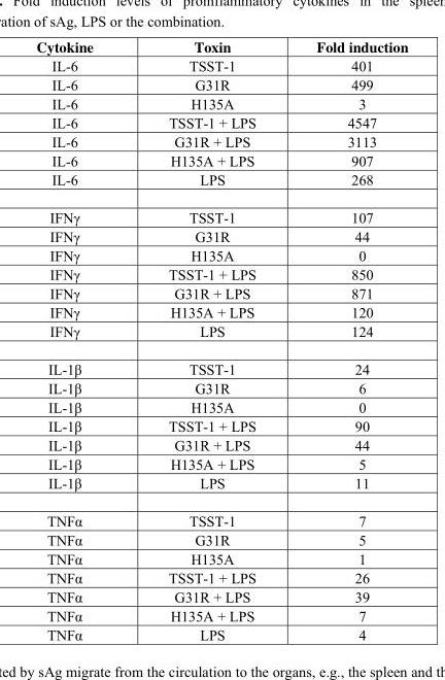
<table><thead><tr><td>Cytokine</td><td>Toxin</td><td>Fold induction</td></tr></thead><tbody><tr><td>IL-6</td><td>TSST-1</td><td>401</td></tr><tr><td>IL-6</td><td>G31R</td><td>499</td></tr><tr><td>IL-6</td><td>H135A</td><td>3</td></tr><tr><td>IL-6</td><td>TSST-1 + LPS</td><td>4547</td></tr><tr><td>IL-6</td><td>G31R + LPS</td><td>3113</td></tr><tr><td>IL-6</td><td>H135A + LPS</td><td>907</td></tr><tr><td>IL-6</td><td>LPS</td><td>268</td></tr><tr><td>IFNγ</td><td>TSST-1</td><td>107</td></tr><tr><td>IFNγ</td><td>G31R</td><td>44</td></tr><tr><td>IFNγ</td><td>H135A</td><td>0</td></tr><tr><td>IFNγ</td><td>TSST-1 + LPS</td><td>850</td></tr><tr><td>IFNγ</td><td>G31R + LPS</td><td>871</td></tr><tr><td>IFNγ</td><td>H135A + LPS</td><td>120</td></tr><tr><td>IFNγ</td><td>LPS</td><td>124</td></tr><tr><td>IL-1β</td><td>TSST-1</td><td>24</td></tr><tr><td>IL-1β</td><td>G31R</td><td>6</td></tr><tr><td>IL-1β</td><td>H135A</td><td>0</td></tr><tr><td>IL-1β</td><td>TSST-1 + LPS</td><td>90</td></tr><tr><td>IL-1β</td><td>G31R + LPS</td><td>44</td></tr><tr><td>IL-1β</td><td>H135A + LPS</td><td>5</td></tr><tr><td>IL-1β</td><td>LPS</td><td>11</td></tr><tr><td>TNFα</td><td>TSST-1</td><td>7</td></tr><tr><td>TNFα</td><td>G31R</td><td>5</td></tr><tr><td>TNFα</td><td>H135A</td><td>1</td></tr><tr><td>TNFα</td><td>TSST-1 + LPS</td><td>26</td></tr><tr><td>TNFα</td><td>G31R + LPS</td><td>39</td></tr><tr><td>TNFα</td><td>H135A + LPS</td><td>7</td></tr><tr><td>TNFα</td><td>LPS</td><td>4</td></tr></tbody></table>